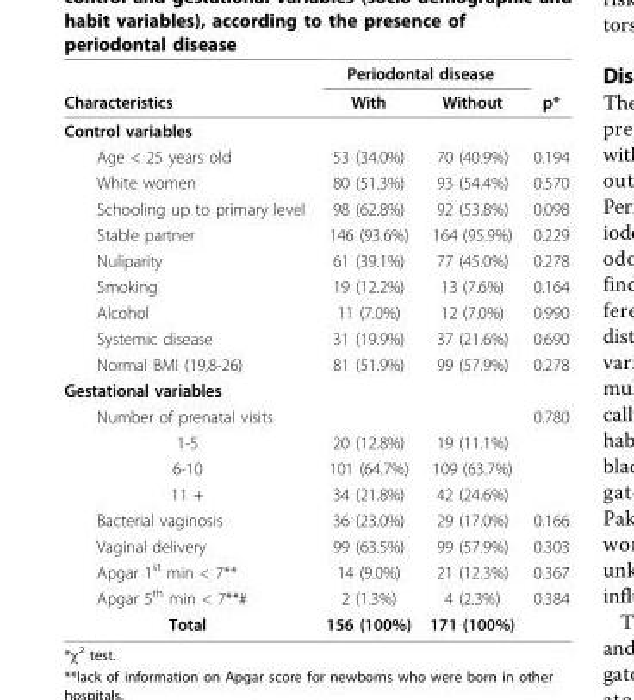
<table><thead><tr><td rowspan="2">Characteristics</td><td colspan="2">Periodontal disease</td><td rowspan="2">p*</td></tr><tr><td>With</td><td>Without</td></tr></thead><tbody><tr><td colspan="4">Control variables</td></tr><tr><td>Age &lt; 25 years old</td><td>53 (34.0%)</td><td>70 (40.9%)</td><td>0.194</td></tr><tr><td>White women</td><td>80 (51.3%)</td><td>93 (54.4%)</td><td>0.570</td></tr><tr><td>Schooling up to primary level</td><td>98 (62.8%)</td><td>92 (53.8%)</td><td>0.098</td></tr><tr><td>Stable partner</td><td>146 (93.6%)</td><td>164 (95.9%)</td><td>0.229</td></tr><tr><td>Nuliparity</td><td>61 (39.1%)</td><td>77 (45.0%)</td><td>0.278</td></tr><tr><td>Smoking</td><td>19 (12.2%)</td><td>13 (7.6%)</td><td>0.164</td></tr><tr><td>Alcohol</td><td>11 (7.0%)</td><td>12 (7.0%)</td><td>0.990</td></tr><tr><td>Systemic disease</td><td>31 (19.9%)</td><td>37 (21.6%)</td><td>0.690</td></tr><tr><td>Normal BMI (19,8-26)</td><td>81 (51.9%)</td><td>99 (57.9%)</td><td>0.278</td></tr><tr><td colspan="4">Gestational variables</td></tr><tr><td>Number of prenatal visits</td><td></td><td></td><td>0.780</td></tr><tr><td>1-5</td><td>20 (12.8%)</td><td>19 (11.1%)</td><td></td></tr><tr><td>6-10</td><td>101 (64.7%)</td><td>109 (63.7%)</td><td></td></tr><tr><td>11 +</td><td>34 (21.8%)</td><td>42 (24.6%)</td><td></td></tr><tr><td>Bacterial vaginosis</td><td>36 (23.0%)</td><td>29 (17.0%)</td><td>0.166</td></tr><tr><td>Vaginal delivery</td><td>99 (63.5%)</td><td>99 (57.9%)</td><td>0.303</td></tr><tr><td>Apgar 1<sup>st</sup> min &lt; 7**</td><td>14 (9.0%)</td><td>21 (12.3%)</td><td>0.367</td></tr><tr><td>Apgar 5<sup>th</sup> min &lt; 7**#</td><td>2 (1.3%)</td><td>4 (2.3%)</td><td>0.384</td></tr><tr><td>Total</td><td>156 (100%)</td><td>171 (100%)</td><td></td></tr></tbody></table>